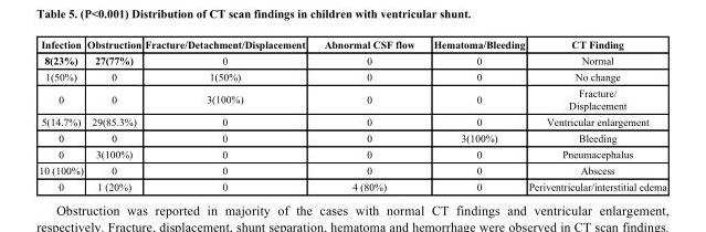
<table><thead><tr><td>Infection</td><td>Obstruction</td><td>Fracture/Detachment/Displacement</td><td>Abnormal CSF flow</td><td>Hematoma/Bleeding</td><td>CT Finding</td></tr></thead><tbody><tr><td>8(23%)</td><td>27(77%)</td><td>0</td><td>0</td><td>0</td><td>Normal</td></tr><tr><td>1(50%)</td><td>0</td><td>1(50%)</td><td>0</td><td>0</td><td>No change</td></tr><tr><td>0</td><td>0</td><td>3(100%)</td><td>0</td><td>0</td><td>Fracture/ Displacement</td></tr><tr><td>5(14.7%)</td><td>29(85.3%)</td><td>0</td><td>0</td><td>0</td><td>Ventricular enlargement</td></tr><tr><td>0</td><td>0</td><td>0</td><td>0</td><td>3(100%)</td><td>Bleeding</td></tr><tr><td>0</td><td>3(100%)</td><td>0</td><td>0</td><td>0</td><td>Pneumacephalus</td></tr><tr><td>10 (100%)</td><td>0</td><td>0</td><td>0</td><td>0</td><td>Abscess</td></tr><tr><td>0</td><td>1 (20%)</td><td>0</td><td>4 (80%)</td><td>0</td><td>Periventricular/interstitial edema</td></tr></tbody></table>